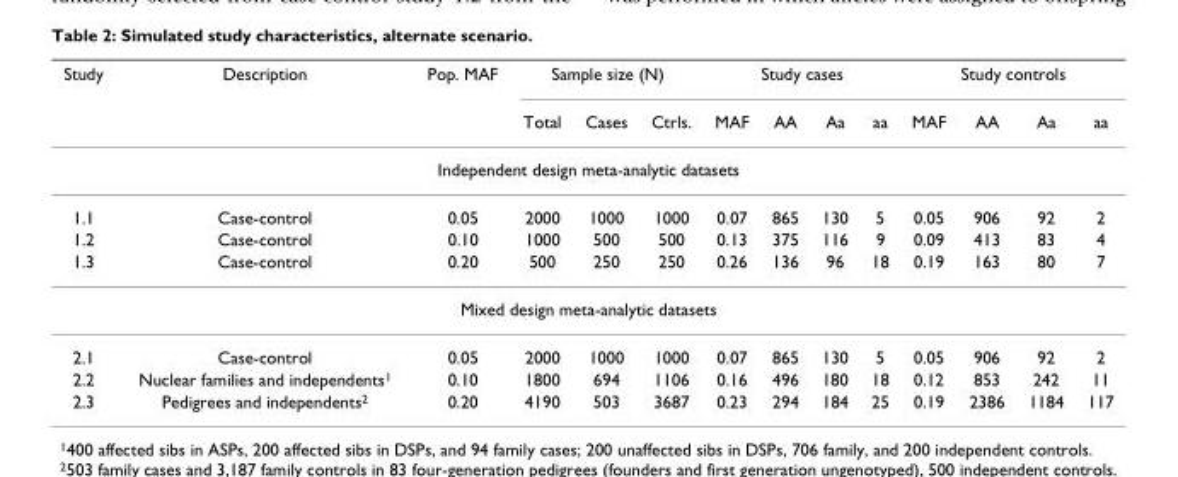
<table><thead><tr><td rowspan="2">Study</td><td rowspan="2">Description</td><td rowspan="2">Pop. MAF</td><td colspan="3">Sample size (N)</td><td colspan="4">Study cases</td><td colspan="4">Study controls</td></tr><tr><td>Total</td><td>Cases</td><td>Ctrls.</td><td>MAF</td><td>AA</td><td>Aa</td><td>aa</td><td>MAF</td><td>AA</td><td>Aa</td><td>aa</td></tr></thead><tbody><tr><td colspan="14">Independent design meta-analytic datasets</td></tr><tr><td>1.1</td><td>Case-control</td><td>0.05</td><td>2000</td><td>1000</td><td>1000</td><td>0.07</td><td>865</td><td>130</td><td>5</td><td>0.05</td><td>906</td><td>92</td><td>2</td></tr><tr><td>1.2</td><td>Case-control</td><td>0.10</td><td>1000</td><td>500</td><td>500</td><td>0.13</td><td>375</td><td>116</td><td>9</td><td>0.09</td><td>413</td><td>83</td><td>4</td></tr><tr><td>1.3</td><td>Case-control</td><td>0.20</td><td>500</td><td>250</td><td>250</td><td>0.26</td><td>136</td><td>96</td><td>18</td><td>0.19</td><td>163</td><td>80</td><td>7</td></tr><tr><td colspan="14">Mixed design meta-analytic datasets</td></tr><tr><td>2.1</td><td>Case-control</td><td>0.05</td><td>2000</td><td>1000</td><td>1000</td><td>0.07</td><td>865</td><td>130</td><td>5</td><td>0.05</td><td>906</td><td>92</td><td>2</td></tr><tr><td>2.2</td><td>Nuclear families and independents<sup>1</sup></td><td>0.10</td><td>1800</td><td>694</td><td>1106</td><td>0.16</td><td>496</td><td>180</td><td>18</td><td>0.12</td><td>853</td><td>242</td><td>11</td></tr><tr><td>2.3</td><td>Pedigrees and independents<sup>2</sup></td><td>0.20</td><td>4190</td><td>503</td><td>3687</td><td>0.23</td><td>294</td><td>184</td><td>25</td><td>0.19</td><td>2386</td><td>1184</td><td>117</td></tr></tbody></table>